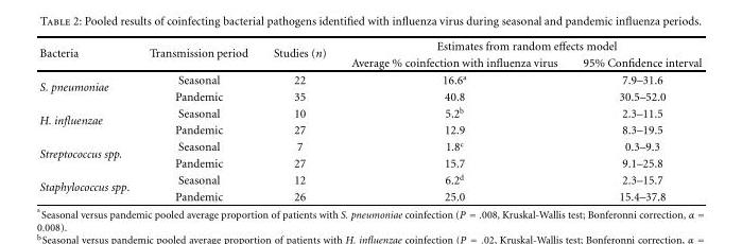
<table><thead><tr><td rowspan="2">Bacteria</td><td rowspan="2">Transmission period</td><td rowspan="2">Studies (n)</td><td colspan="2">Estimates from random effects model</td></tr><tr><td>Average % coinfection with influenza virus</td><td>95% Confidence interval</td></tr></thead><tbody><tr><td rowspan="2">S. pneumoniae</td><td>Seasonal</td><td>22</td><td>16.6<sup>a</sup></td><td>7.9–31.6</td></tr><tr><td>Pandemic</td><td>35</td><td>40.8</td><td>30.5–52.0</td></tr><tr><td rowspan="2">H. influenzae</td><td>Seasonal</td><td>10</td><td>5.2<sup>b</sup></td><td>2.3–11.5</td></tr><tr><td>Pandemic</td><td>27</td><td>12.9</td><td>8.3–19.5</td></tr><tr><td rowspan="2">Streptococcus spp.</td><td>Seasonal</td><td>7</td><td>1.8<sup>c</sup></td><td>0.3–9.3</td></tr><tr><td>Pandemic</td><td>27</td><td>15.7</td><td>9.1–25.8</td></tr><tr><td rowspan="2">Staphylococcus spp.</td><td>Seasonal</td><td>12</td><td>6.2<sup>d</sup></td><td>2.3–15.7</td></tr><tr><td>Pandemic</td><td>26</td><td>25.0</td><td>15.4–37.8</td></tr></tbody></table>